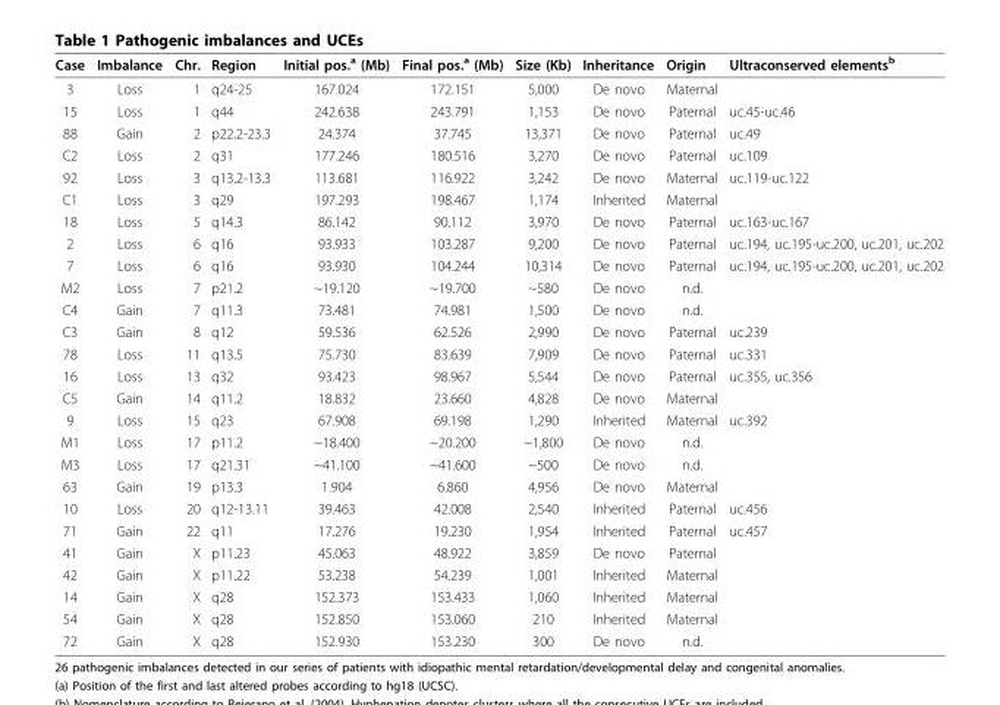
<table><thead><tr><td>Case</td><td>Imbalance</td><td>Chr.</td><td>Region</td><td>Initial pos.<sup>a</sup> (Mb)</td><td>Final pos.<sup>a</sup> (Mb)</td><td>Size (Kb)</td><td>Inheritance</td><td>Origin</td><td>Ultraconserved elements<sup>b</sup></td></tr></thead><tbody><tr><td>3</td><td>Loss</td><td>1</td><td>q24-25</td><td>167.024</td><td>172.151</td><td>5,000</td><td>De novo</td><td>Maternal</td><td></td></tr><tr><td>15</td><td>Loss</td><td>1</td><td>q44</td><td>242.638</td><td>243.791</td><td>1,153</td><td>De novo</td><td>Paternal</td><td>uc.45-uc.46</td></tr><tr><td>88</td><td>Gain</td><td>2</td><td>p22.2-23.3</td><td>24.374</td><td>37.745</td><td>13,371</td><td>De novo</td><td>Paternal</td><td>uc.49</td></tr><tr><td>C2</td><td>Loss</td><td>2</td><td>q31</td><td>177.246</td><td>180.516</td><td>3,270</td><td>De novo</td><td>Paternal</td><td>uc.109</td></tr><tr><td>92</td><td>Loss</td><td>3</td><td>q13.2-13.3</td><td>113.681</td><td>116.922</td><td>3,242</td><td>De novo</td><td>Maternal</td><td>uc.119-uc.122</td></tr><tr><td>C1</td><td>Loss</td><td>3</td><td>q29</td><td>197.293</td><td>198.467</td><td>1,174</td><td>Inherited</td><td>Maternal</td><td></td></tr><tr><td>18</td><td>Loss</td><td>5</td><td>q14.3</td><td>86.142</td><td>90.112</td><td>3,970</td><td>De novo</td><td>Paternal</td><td>uc.163-uc.167</td></tr><tr><td>2</td><td>Loss</td><td>6</td><td>q16</td><td>93.933</td><td>103.287</td><td>9,200</td><td>De novo</td><td>Paternal</td><td>uc.194, uc.195-uc.200, uc.201, uc.202</td></tr><tr><td>7</td><td>Loss</td><td>6</td><td>q16</td><td>93.930</td><td>104.244</td><td>10,314</td><td>De novo</td><td>Paternal</td><td>uc.194, uc.195-uc.200, uc.201, uc.202</td></tr><tr><td>M2</td><td>Loss</td><td>7</td><td>p21.2</td><td>~19.120</td><td>~19.700</td><td>~580</td><td>De novo</td><td>n.d.</td><td></td></tr><tr><td>C4</td><td>Gain</td><td>7</td><td>q11.3</td><td>73.481</td><td>74.981</td><td>1,500</td><td>De novo</td><td>n.d.</td><td></td></tr><tr><td>C3</td><td>Gain</td><td>8</td><td>q12</td><td>59.536</td><td>62.526</td><td>2,990</td><td>De novo</td><td>Paternal</td><td>uc.239</td></tr><tr><td>78</td><td>Loss</td><td>11</td><td>q13.5</td><td>75.730</td><td>83.639</td><td>7,909</td><td>De novo</td><td>Paternal</td><td>uc.331</td></tr><tr><td>16</td><td>Loss</td><td>13</td><td>q32</td><td>93.423</td><td>98.967</td><td>5,544</td><td>De novo</td><td>Paternal</td><td>uc.355, uc.356</td></tr><tr><td>C5</td><td>Gain</td><td>14</td><td>q11.2</td><td>18.832</td><td>23.660</td><td>4,828</td><td>De novo</td><td>Maternal</td><td></td></tr><tr><td>9</td><td>Loss</td><td>15</td><td>q23</td><td>67.908</td><td>69.198</td><td>1,290</td><td>Inherited</td><td>Maternal</td><td>uc.392</td></tr><tr><td>M1</td><td>Loss</td><td>17</td><td>p11.2</td><td>~18.400</td><td>~20.200</td><td>~1,800</td><td>De novo</td><td>n.d.</td><td></td></tr><tr><td>M3</td><td>Loss</td><td>17</td><td>q21.31</td><td>~41.100</td><td>~41.600</td><td>~500</td><td>De novo</td><td>n.d.</td><td></td></tr><tr><td>63</td><td>Gain</td><td>19</td><td>p13.3</td><td>1.904</td><td>6.860</td><td>4,956</td><td>De novo</td><td>Maternal</td><td></td></tr><tr><td>10</td><td>Loss</td><td>20</td><td>q12-13.11</td><td>39.463</td><td>42.008</td><td>2,540</td><td>Inherited</td><td>Paternal</td><td>uc.456</td></tr><tr><td>71</td><td>Gain</td><td>22</td><td>q11</td><td>17.276</td><td>19.230</td><td>1,954</td><td>Inherited</td><td>Paternal</td><td>uc.457</td></tr><tr><td>41</td><td>Gain</td><td>X</td><td>p11.23</td><td>45.063</td><td>48.922</td><td>3,859</td><td>De novo</td><td>Paternal</td><td></td></tr><tr><td>42</td><td>Gain</td><td>X</td><td>p11.22</td><td>53.238</td><td>54.239</td><td>1,001</td><td>Inherited</td><td>Maternal</td><td></td></tr><tr><td>14</td><td>Gain</td><td>X</td><td>q28</td><td>152.373</td><td>153.433</td><td>1,060</td><td>Inherited</td><td>Maternal</td><td></td></tr><tr><td>54</td><td>Gain</td><td>X</td><td>q28</td><td>152.850</td><td>153.060</td><td>210</td><td>Inherited</td><td>Maternal</td><td></td></tr><tr><td>72</td><td>Gain</td><td>X</td><td>q28</td><td>152.930</td><td>153.230</td><td>300</td><td>De novo</td><td>n.d.</td><td></td></tr></tbody></table>